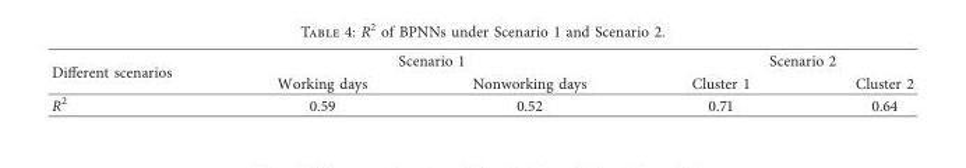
<table><thead><tr><td rowspan="2">Different scenarios</td><td colspan="2">Scenario 1</td><td colspan="2">Scenario 2</td></tr><tr><td>Working days</td><td>Nonworking days</td><td>Cluster 1</td><td>Cluster 2</td></tr></thead><tbody><tr><td>R<sup>2</sup></td><td>0.59</td><td>0.52</td><td>0.71</td><td>0.64</td></tr></tbody></table>